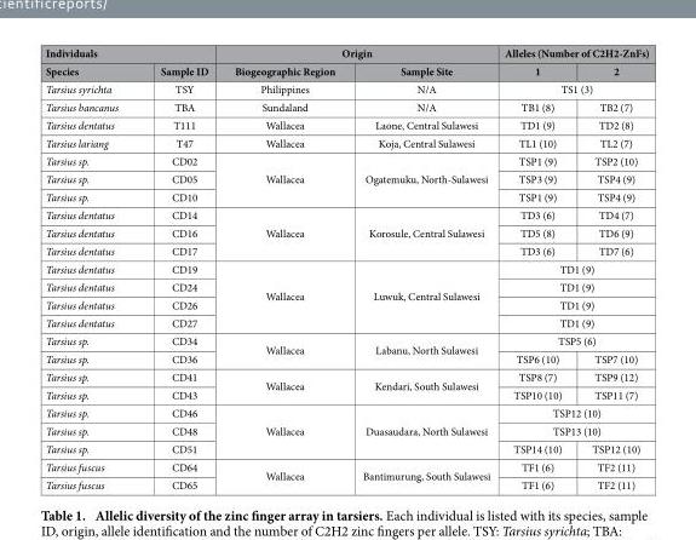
<table><thead><tr><td colspan="2">Individuals</td><td colspan="2">Origin</td><td colspan="2">Alleles (Number of C2H2-ZnFs)</td></tr><tr><td>Species</td><td>Sample ID</td><td>Biogeographic Region</td><td>Sample Site</td><td>1</td><td>2</td></tr></thead><tbody><tr><td>Tarsius syrichta</td><td>TSY</td><td>Philippines</td><td>N/A</td><td colspan="2">TS1 (3)</td></tr><tr><td>Tarsius bancanus</td><td>TBA</td><td>Sundaland</td><td>N/A</td><td>TB1 (8)</td><td>TB2 (7)</td></tr><tr><td>Tarsius dentatus</td><td>T111</td><td>Wallacea</td><td>Laone, Central Sulawesi</td><td>TD1 (9)</td><td>TD2 (8)</td></tr><tr><td>Tarsius lariang</td><td>T47</td><td>Wallacea</td><td>Koja, Central Sulawesi</td><td>TL1 (10)</td><td>TL2 (7)</td></tr><tr><td>Tarsius sp.</td><td>CD02</td><td rowspan="3">Wallacea</td><td rowspan="3">Ogatemuku, North-Sulawesi</td><td>TSP1 (9)</td><td>TSP2 (10)</td></tr><tr><td>Tarsius sp.</td><td>CD05</td><td>TSP3 (9)</td><td>TSP4 (9)</td></tr><tr><td>Tarsius sp.</td><td>CD10</td><td>TSP1 (9)</td><td>TSP4 (9)</td></tr><tr><td>Tarsius dentatus</td><td>CD14</td><td rowspan="3">Wallacea</td><td rowspan="3">Korosule, Central Sulawesi</td><td>TD3 (6)</td><td>TD4 (7)</td></tr><tr><td>Tarsius dentatus</td><td>CD16</td><td>TD5 (8)</td><td>TD6 (9)</td></tr><tr><td>Tarsius dentatus</td><td>CD17</td><td>TD3 (6)</td><td>TD7 (6)</td></tr><tr><td>Tarsius dentatus</td><td>CD19</td><td rowspan="4">Wallacea</td><td rowspan="4">Luwuk, Central Sulawesi</td><td colspan="2">TD1 (9)</td></tr><tr><td>Tarsius dentatus</td><td>CD24</td><td colspan="2">TD1 (9)</td></tr><tr><td>Tarsius dentatus</td><td>CD26</td><td colspan="2">TD1 (9)</td></tr><tr><td>Tarsius dentatus</td><td>CD27</td><td colspan="2">TD1 (9)</td></tr><tr><td>Tarsius sp.</td><td>CD34</td><td rowspan="2">Wallacea</td><td rowspan="2">Labanu, North Sulawesi</td><td colspan="2">TSP5 (6)</td></tr><tr><td>Tarsius sp.</td><td>CD36</td><td>TSP6 (10)</td><td>TSP7 (10)</td></tr><tr><td>Tarsius sp.</td><td>CD41</td><td rowspan="2">Wallacea</td><td rowspan="2">Kendari, South Sulawesi</td><td>TSP8 (7)</td><td>TSP9 (12)</td></tr><tr><td>Tarsius sp.</td><td>CD43</td><td>TSP10 (10)</td><td>TSP11 (7)</td></tr><tr><td>Tarsius sp.</td><td>CD46</td><td rowspan="3">Wallacea</td><td rowspan="3">Duasaudara, North Sulawesi</td><td colspan="2">TSP12 (10)</td></tr><tr><td>Tarsius sp.</td><td>CD48</td><td colspan="2">TSP13 (10)</td></tr><tr><td>Tarsius sp.</td><td>CD51</td><td>TSP14 (10)</td><td>TSP12 (10)</td></tr><tr><td>Tarsius fuscus</td><td>CD64</td><td rowspan="2">Wallacea</td><td rowspan="2">Bantimurung, South Sulawesi</td><td>TF1 (6)</td><td>TF2 (11)</td></tr><tr><td>Tarsius fuscus</td><td>CD65</td><td>TF1 (6)</td><td>TF2 (11)</td></tr></tbody></table>